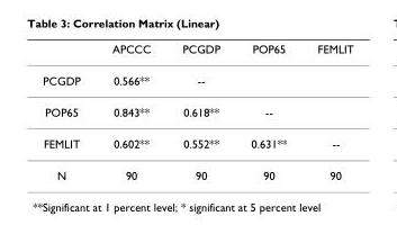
<table><thead><tr><td></td><td>APCCC</td><td>PCGDP</td><td>POP65</td><td>FEMLIT</td></tr></thead><tbody><tr><td>PCGDP</td><td>0.566**</td><td>--</td><td></td><td></td></tr><tr><td>POP65</td><td>0.843**</td><td>0.618**</td><td>--</td><td></td></tr><tr><td>FEMLIT</td><td>0.602**</td><td>0.552**</td><td>0.631**</td><td>--</td></tr><tr><td>N</td><td>90</td><td>90</td><td>90</td><td>90</td></tr></tbody></table>